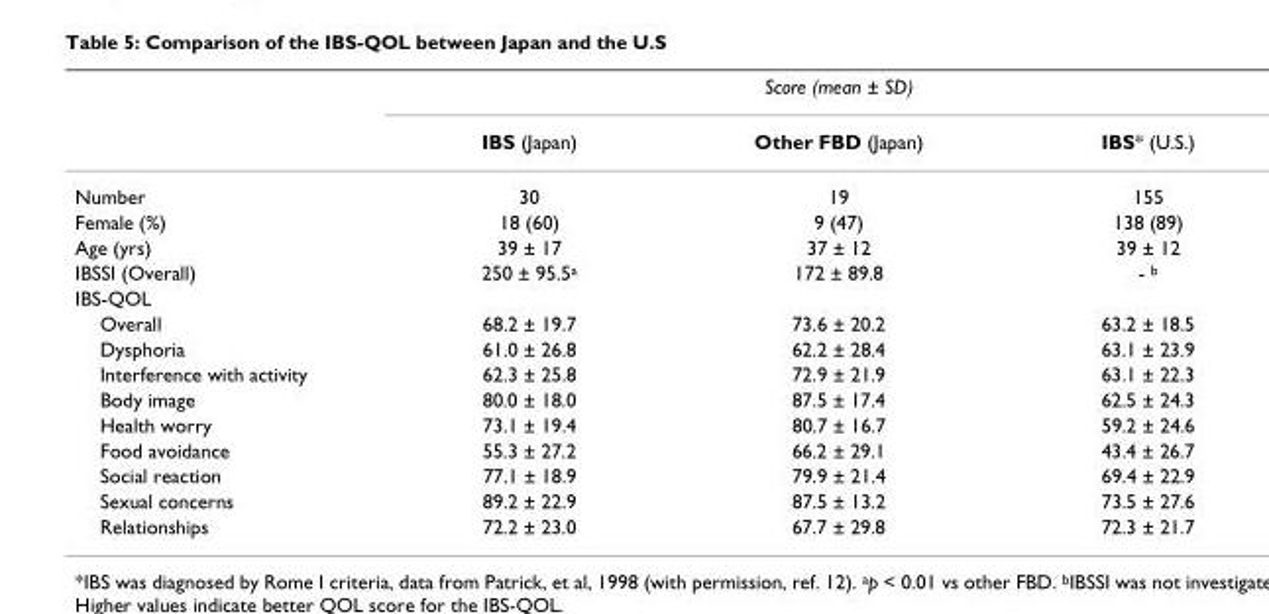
<table><thead><tr><td rowspan="2"></td><td colspan="3">Score (mean ± SD)</td></tr><tr><td>IBS (Japan)</td><td>Other FBD (Japan)</td><td>IBS* (U.S.)</td></tr></thead><tbody><tr><td>Number</td><td>30</td><td>19</td><td>155</td></tr><tr><td>Female (%)</td><td>18 (60)</td><td>9 (47)</td><td>138 (89)</td></tr><tr><td>Age (yrs)</td><td>39 ± 17</td><td>37 ± 12</td><td>39 ± 12</td></tr><tr><td>IBSSI (Overall)</td><td>250 ± 95.5<sup>a</sup></td><td>172 ± 89.8</td><td>- <sup>b</sup></td></tr><tr><td colspan="4">IBS-QOL</td></tr><tr><td>Overall</td><td>68.2 ± 19.7</td><td>73.6 ± 20.2</td><td>63.2 ± 18.5</td></tr><tr><td>Dysphoria</td><td>61.0 ± 26.8</td><td>62.2 ± 28.4</td><td>63.1 ± 23.9</td></tr><tr><td>Interference with activity</td><td>62.3 ± 25.8</td><td>72.9 ± 21.9</td><td>63.1 ± 22.3</td></tr><tr><td>Body image</td><td>80.0 ± 18.0</td><td>87.5 ± 17.4</td><td>62.5 ± 24.3</td></tr><tr><td>Health worry</td><td>73.1 ± 19.4</td><td>80.7 ± 16.7</td><td>59.2 ± 24.6</td></tr><tr><td>Food avoidance</td><td>55.3 ± 27.2</td><td>66.2 ± 29.1</td><td>43.4 ± 26.7</td></tr><tr><td>Social reaction</td><td>77.1 ± 18.9</td><td>79.9 ± 21.4</td><td>69.4 ± 22.9</td></tr><tr><td>Sexual concerns</td><td>89.2 ± 22.9</td><td>87.5 ± 13.2</td><td>73.5 ± 27.6</td></tr><tr><td>Relationships</td><td>72.2 ± 23.0</td><td>67.7 ± 29.8</td><td>72.3 ± 21.7</td></tr></tbody></table>